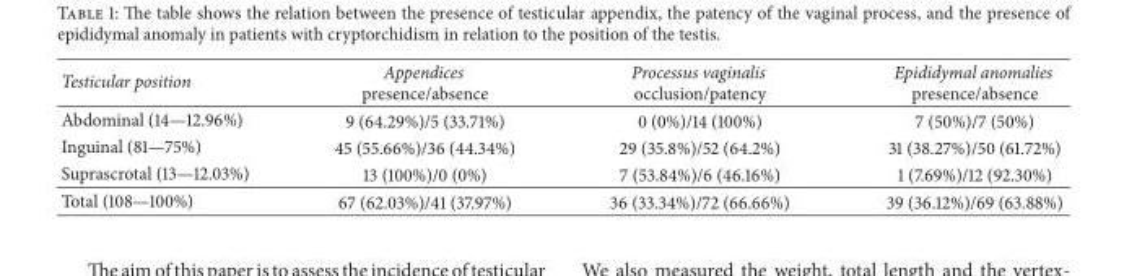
<table><thead><tr><td>Testicular position</td><td>Appendices presence/absence</td><td>Processus vaginalis occlusion/patency</td><td>Epididymal anomalies presence/absence</td></tr></thead><tbody><tr><td>Abdominal (14—12.96%)</td><td>9 (64.29%)/5 (33.71%)</td><td>0 (0%)/14 (100%)</td><td>7 (50%)/7 (50%)</td></tr><tr><td>Inguinal (81—75%)</td><td>45 (55.66%)/36 (44.34%)</td><td>29 (35.8%)/52 (64.2%)</td><td>31 (38.27%)/50 (61.72%)</td></tr><tr><td>Suprascrotal (13—12.03%)</td><td>13 (100%)/0 (0%)</td><td>7 (53.84%)/6 (46.16%)</td><td>1 (7.69%)/12 (92.30%)</td></tr><tr><td>Total (108—100%)</td><td>67 (62.03%)/41 (37.97%)</td><td>36 (33.34%)/72 (66.66%)</td><td>39 (36.12%)/69 (63.88%)</td></tr></tbody></table>